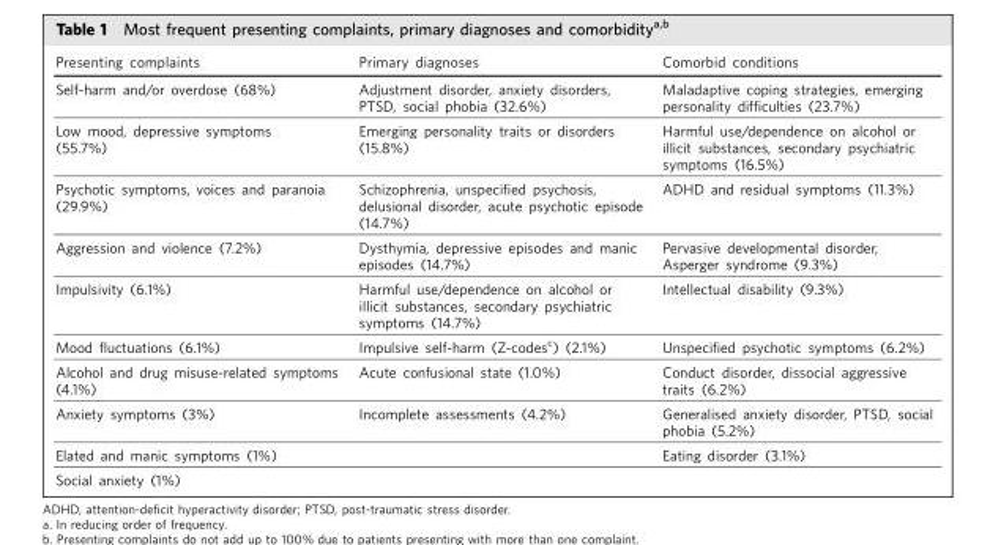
<table><thead><tr><td>Presenting complaints</td><td>Primary diagnoses</td><td>Comorbid conditions</td></tr></thead><tbody><tr><td>Self-harm and/or overdose (68%)</td><td>Adjustment disorder, anxiety disorders, PTSD, social phobia (32.6%)</td><td>Maladaptive coping strategies, emerging personality difficulties (23.7%)</td></tr><tr><td>Low mood, depressive symptoms (55.7%)</td><td>Emerging personality traits or disorders (15.8%)</td><td>Harmful use/dependence on alcohol or illicit substances, secondary psychiatric symptoms (16.5%)</td></tr><tr><td>Psychotic symptoms, voices and paranoia (29.9%)</td><td>Schizophrenia, unspecified psychosis, delusional disorder, acute psychotic episode (14.7%)</td><td>ADHD and residual symptoms (11.3%)</td></tr><tr><td>Aggression and violence (7.2%)</td><td>Dysthymia, depressive episodes and manic episodes (14.7%)</td><td>Pervasive developmental disorder, Asperger syndrome (9.3%)</td></tr><tr><td>Impulsivity (6.1%)</td><td>Harmful use/dependence on alcohol or illicit substances, secondary psychiatric symptoms (14.7%)</td><td>Intellectual disability (9.3%)</td></tr><tr><td>Mood fluctuations (6.1%)</td><td>Impulsive self-harm (Z-codes<sup>c</sup>) (2.1%)</td><td>Unspecified psychotic symptoms (6.2%)</td></tr><tr><td>Alcohol and drug misuse-related symptoms (4.1%)</td><td>Acute confusional state (1.0%)</td><td>Conduct disorder, dissocial aggressive traits (6.2%)</td></tr><tr><td>Anxiety symptoms (3%)</td><td>Incomplete assessments (4.2%)</td><td>Generalised anxiety disorder, PTSD, social phobia (5.2%)</td></tr><tr><td>Elated and manic symptoms (1%)</td><td></td><td>Eating disorder (3.1%)</td></tr><tr><td>Social anxiety (1%)</td><td></td><td></td></tr></tbody></table>